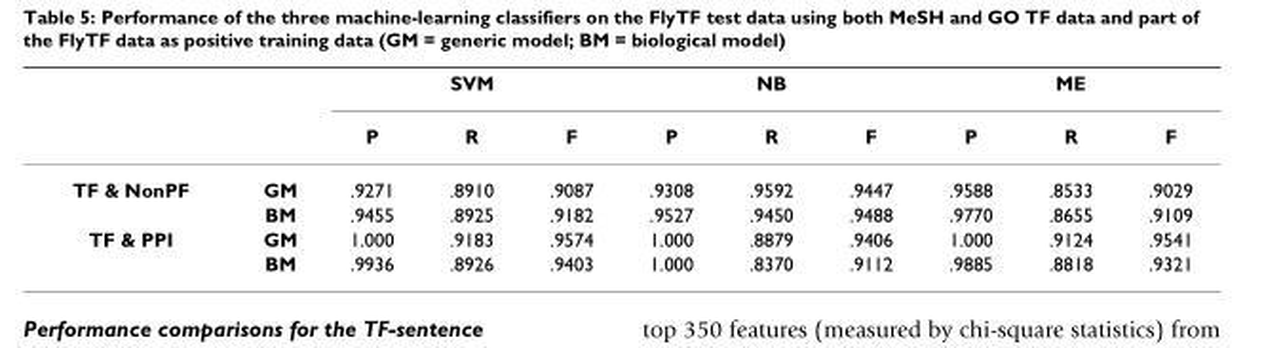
<table><thead><tr><td rowspan="2"></td><td rowspan="2"></td><td colspan="3">SVM</td><td colspan="3">NB</td><td colspan="3">ME</td></tr><tr><td>P</td><td>R</td><td>F</td><td>P</td><td>R</td><td>F</td><td>P</td><td>R</td><td>F</td></tr></thead><tbody><tr><td rowspan="2">TF &amp; NonPF</td><td>GM</td><td>.9271</td><td>.8910</td><td>.9087</td><td>.9308</td><td>.9592</td><td>.9447</td><td>.9588</td><td>.8533</td><td>.9029</td></tr><tr><td>BM</td><td>.9455</td><td>.8925</td><td>.9182</td><td>.9527</td><td>.9450</td><td>.9488</td><td>.9770</td><td>.8655</td><td>.9109</td></tr><tr><td rowspan="2">TF &amp; PPI</td><td>GM</td><td>1.000</td><td>.9183</td><td>.9574</td><td>1.000</td><td>.8879</td><td>.9406</td><td>1.000</td><td>.9124</td><td>.9541</td></tr><tr><td>BM</td><td>.9936</td><td>.8926</td><td>.9403</td><td>1.000</td><td>.8370</td><td>.9112</td><td>.9885</td><td>.8818</td><td>.9321</td></tr></tbody></table>